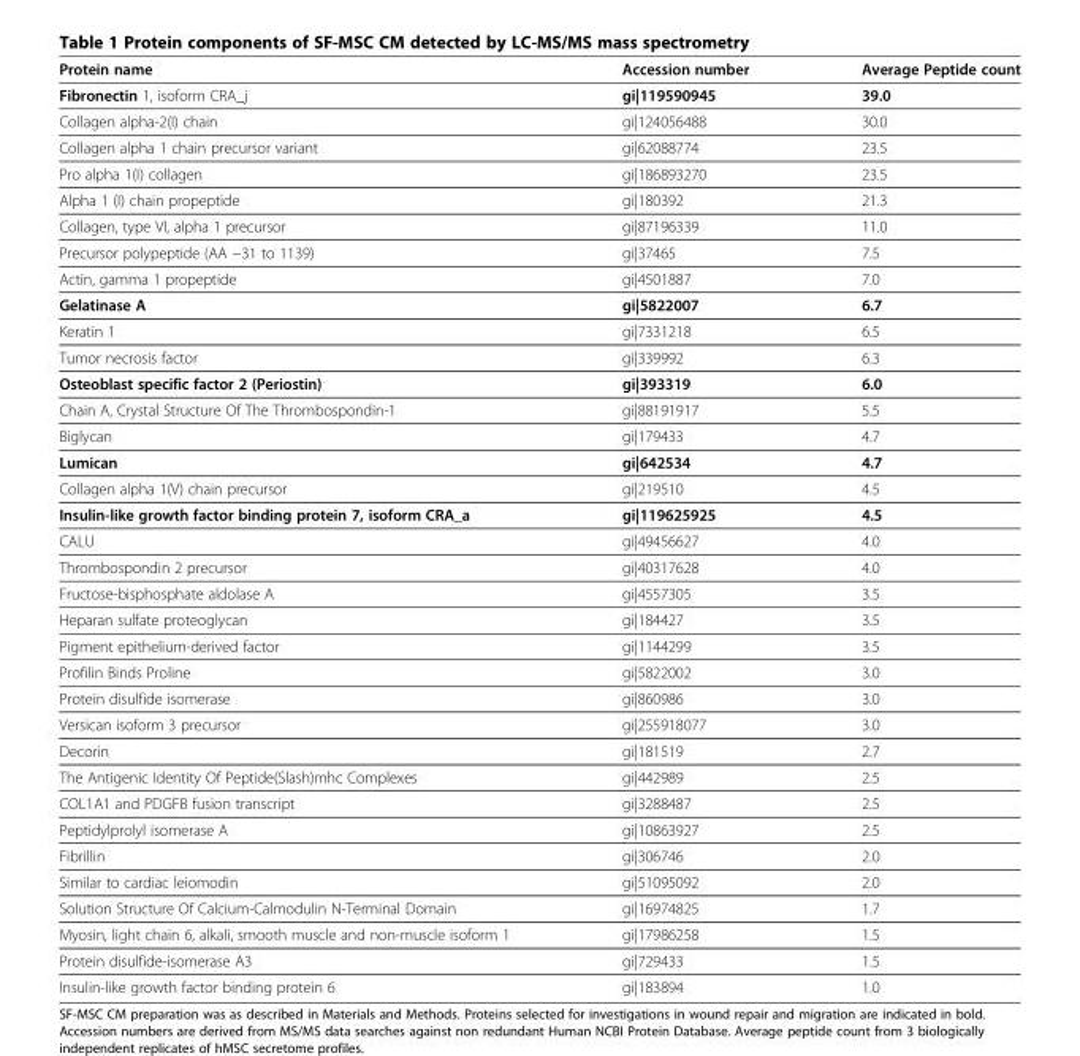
<table><thead><tr><td>Protein name</td><td>Accession number</td><td>Average Peptide count</td></tr></thead><tbody><tr><td>Fibronectin 1, isoform CRA_j</td><td>gi|119590945</td><td>39.0</td></tr><tr><td>Collagen alpha-2(I) chain</td><td>gi|124056488</td><td>30.0</td></tr><tr><td>Collagen alpha 1 chain precursor variant</td><td>gi|62088774</td><td>23.5</td></tr><tr><td>Pro alpha 1(I) collagen</td><td>gi|186893270</td><td>23.5</td></tr><tr><td>Alpha 1 (I) chain propeptide</td><td>gi|180392</td><td>21.3</td></tr><tr><td>Collagen, type VI, alpha 1 precursor</td><td>gi|87196339</td><td>11.0</td></tr><tr><td>Precursor polypeptide (AA −31 to 1139)</td><td>gi|37465</td><td>7.5</td></tr><tr><td>Actin, gamma 1 propeptide</td><td>gi|4501887</td><td>7.0</td></tr><tr><td>Gelatinase A</td><td>gi|5822007</td><td>6.7</td></tr><tr><td>Keratin 1</td><td>gi|7331218</td><td>6.5</td></tr><tr><td>Tumor necrosis factor</td><td>gi|339992</td><td>6.3</td></tr><tr><td>Osteoblast specific factor 2 (Periostin)</td><td>gi|393319</td><td>6.0</td></tr><tr><td>Chain A, Crystal Structure Of The Thrombospondin-1</td><td>gi|88191917</td><td>5.5</td></tr><tr><td>Biglycan</td><td>gi|179433</td><td>4.7</td></tr><tr><td>Lumican</td><td>gi|642534</td><td>4.7</td></tr><tr><td>Collagen alpha 1(V) chain precursor</td><td>gi|219510</td><td>4.5</td></tr><tr><td>Insulin-like growth factor binding protein 7, isoform CRA_a</td><td>gi|119625925</td><td>4.5</td></tr><tr><td>CALU</td><td>gi|49456627</td><td>4.0</td></tr><tr><td>Thrombospondin 2 precursor</td><td>gi|40317628</td><td>4.0</td></tr><tr><td>Fructose-bisphosphate aldolase A</td><td>gi|4557305</td><td>3.5</td></tr><tr><td>Heparan sulfate proteoglycan</td><td>gi|184427</td><td>3.5</td></tr><tr><td>Pigment epithelium-derived factor</td><td>gi|1144299</td><td>3.5</td></tr><tr><td>Profilin Binds Proline</td><td>gi|5822002</td><td>3.0</td></tr><tr><td>Protein disulfide isomerase</td><td>gi|860986</td><td>3.0</td></tr><tr><td>Versican isoform 3 precursor</td><td>gi|255918077</td><td>3.0</td></tr><tr><td>Decorin</td><td>gi|181519</td><td>2.7</td></tr><tr><td>The Antigenic Identity Of Peptide(Slash)mhc Complexes</td><td>gi|442989</td><td>2.5</td></tr><tr><td>COL1A1 and PDGFB fusion transcript</td><td>gi|3288487</td><td>2.5</td></tr><tr><td>Peptidylprolyl isomerase A</td><td>gi|10863927</td><td>2.5</td></tr><tr><td>Fibrillin</td><td>gi|306746</td><td>2.0</td></tr><tr><td>Similar to cardiac leiomodin</td><td>gi|51095092</td><td>2.0</td></tr><tr><td>Solution Structure Of Calcium-Calmodulin N-Terminal Domain</td><td>gi|16974825</td><td>1.7</td></tr><tr><td>Myosin, light chain 6, alkali, smooth muscle and non-muscle isoform 1</td><td>gi|17986258</td><td>1.5</td></tr><tr><td>Protein disulfide-isomerase A3</td><td>gi|729433</td><td>1.5</td></tr><tr><td>Insulin-like growth factor binding protein 6</td><td>gi|183894</td><td>1.0</td></tr></tbody></table>